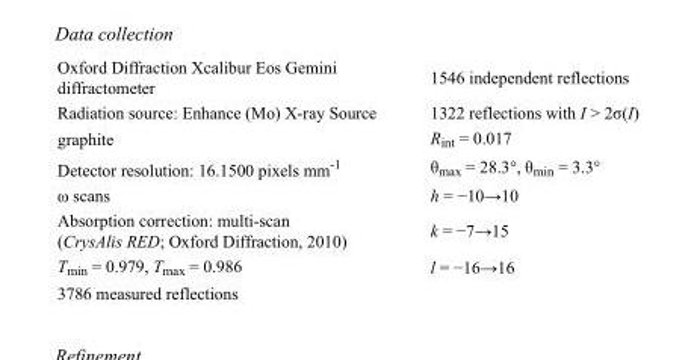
<table><tbody><tr><td>Oxford Diffraction Xcalibur Eos Gemini diffractometer</td><td>1546 independent reflections</td></tr><tr><td>Radiation source: Enhance (Mo) X-ray Source</td><td>1322 reflections with I &gt; 2σ(I)</td></tr><tr><td>graphite</td><td>R<sub>int</sub> = 0.017</td></tr><tr><td>Detector resolution: 16.1500 pixels mm<sup>-1</sup></td><td>θ<sub>max</sub> = 28.3°, θ<sub>min</sub> = 3.3°</td></tr><tr><td>ω scans</td><td>h = −10→10</td></tr><tr><td>Absorption correction: multi-scan (CrysAlis RED; Oxford Diffraction, 2010)</td><td>k = −7→15</td></tr><tr><td>T<sub>min</sub> = 0.979, T<sub>max</sub> = 0.986</td><td>l = −16→16</td></tr><tr><td>3786 measured reflections</td><td></td></tr></tbody></table>